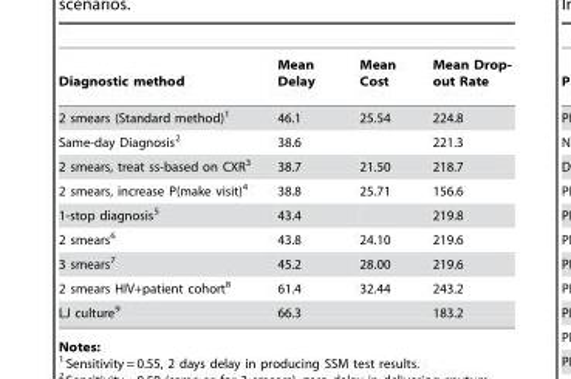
<table><thead><tr><td>Diagnostic method</td><td>Mean Delay</td><td>Mean Cost</td><td>Mean Drop- out Rate</td></tr></thead><tbody><tr><td>2 smears (Standard method)<sup>1</sup></td><td>46.1</td><td>25.54</td><td>224.8</td></tr><tr><td>Same-day Diagnosis<sup>2</sup></td><td>38.6</td><td></td><td>221.3</td></tr><tr><td>2 smears, treat ss-based on CXR<sup>3</sup></td><td>38.7</td><td>21.50</td><td>218.7</td></tr><tr><td>2 smears, increase P(make visit)<sup>4</sup></td><td>38.8</td><td>25.71</td><td>156.6</td></tr><tr><td>1-stop diagnosis<sup>5</sup></td><td>43.4</td><td></td><td>219.8</td></tr><tr><td>2 smears<sup>6</sup></td><td>43.8</td><td>24.10</td><td>219.6</td></tr><tr><td>3 smears<sup>7</sup></td><td>45.2</td><td>28.00</td><td>219.6</td></tr><tr><td>2 smears HIV+patient cohort<sup>8</sup></td><td>61.4</td><td>32.44</td><td>243.2</td></tr><tr><td>LJ culture<sup>9</sup></td><td>66.3</td><td></td><td>183.2</td></tr></tbody></table>